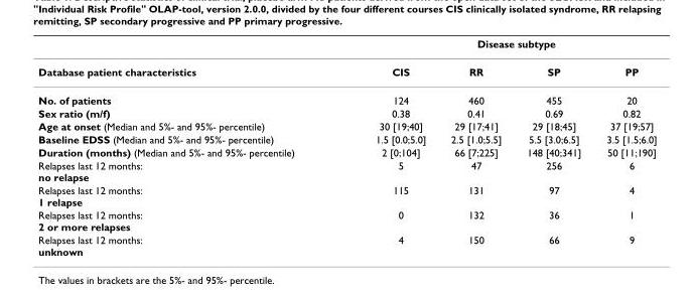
<table><thead><tr><td rowspan="2">Database patient characteristics</td><td colspan="4">Disease subtype</td></tr><tr><td>CIS</td><td>RR</td><td>SP</td><td>PP</td></tr></thead><tbody><tr><td>No. of patients</td><td>124</td><td>460</td><td>455</td><td>20</td></tr><tr><td>Sex ratio (m/f)</td><td>0.38</td><td>0.41</td><td>0.69</td><td>0.82</td></tr><tr><td>Age at onset (Median and 5%- and 95%- percentile)</td><td>30 [19;40]</td><td>29 [17;41]</td><td>29 [18;45]</td><td>37 [19;57]</td></tr><tr><td>Baseline EDSS (Median and 5%- and 95%- percentile)</td><td>1.5 [0.0;5.0]</td><td>2.5 [1.0;5.5]</td><td>5.5 [3.0;6.5]</td><td>3.5 [1.5;6.0]</td></tr><tr><td>Duration (months) (Median and 5%- and 95%- percentile)</td><td>2 [0;104]</td><td>66 [7;225]</td><td>148 [40;341]</td><td>50 [11;190]</td></tr><tr><td>Relapses last 12 months: no relapse</td><td>5</td><td>47</td><td>256</td><td>6</td></tr><tr><td>Relapses last 12 months: 1 relapse</td><td>115</td><td>131</td><td>97</td><td>4</td></tr><tr><td>Relapses last 12 months: 2 or more relapses</td><td>0</td><td>132</td><td>36</td><td>1</td></tr><tr><td>Relapses last 12 months: unknown</td><td>4</td><td>150</td><td>66</td><td>9</td></tr></tbody></table>